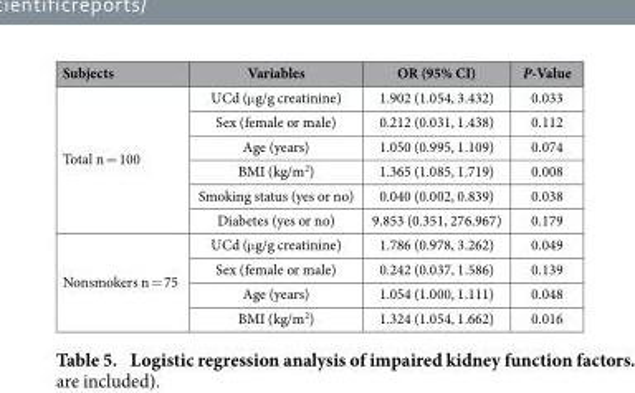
<table><thead><tr><td>Subjects</td><td>Variables</td><td>OR (95% CI)</td><td>P-Value</td></tr></thead><tbody><tr><td rowspan="6">Total n = 100</td><td>UCd (μ g/g creatinine)</td><td>1.902 (1.054, 3.432)</td><td>0.033</td></tr><tr><td>Sex (female or male)</td><td>0.212 (0.031, 1.438)</td><td>0.112</td></tr><tr><td>Age (years)</td><td>1.050 (0.995, 1.109)</td><td>0.074</td></tr><tr><td>BMI (kg/m<sup>2</sup>)</td><td>1.365 (1.085, 1.719)</td><td>0.008</td></tr><tr><td>Smoking status (yes or no)</td><td>0.040 (0.002, 0.839)</td><td>0.038</td></tr><tr><td>Diabetes (yes or no)</td><td>9.853 (0.351, 276.967)</td><td>0.179</td></tr><tr><td rowspan="4">Nonsmokers n = 75</td><td>UCd (μ g/g creatinine)</td><td>1.786 (0.978, 3.262)</td><td>0.049</td></tr><tr><td>Sex (female or male)</td><td>0.242 (0.037, 1.586)</td><td>0.139</td></tr><tr><td>Age (years)</td><td>1.054 (1.000, 1.111)</td><td>0.048</td></tr><tr><td>BMI (kg/m<sup>2</sup>)</td><td>1.324 (1.054, 1.662)</td><td>0.016</td></tr></tbody></table>